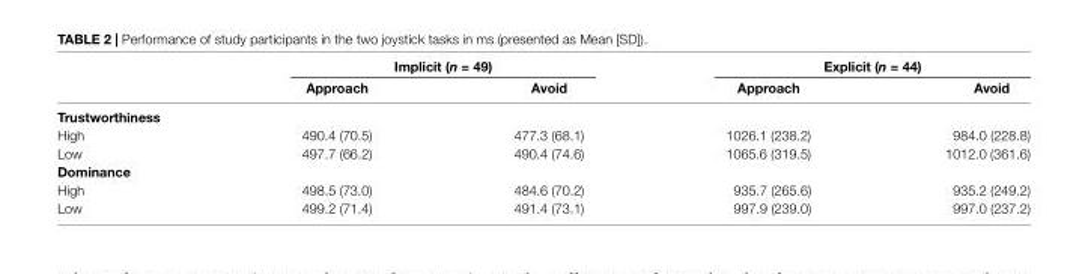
<table><thead><tr><td rowspan="2"></td><td colspan="2">Implicit (n = 49)</td><td colspan="2">Explicit (n = 44)</td></tr><tr><td>Approach</td><td>Avoid</td><td>Approach</td><td>Avoid</td></tr></thead><tbody><tr><td colspan="5">Trustworthiness</td></tr><tr><td>High</td><td>490.4 (70.5)</td><td>477.3 (68.1)</td><td>1026.1 (238.2)</td><td>984.0 (228.8)</td></tr><tr><td>Low</td><td>497.7 (66.2)</td><td>490.4 (74.6)</td><td>1065.6 (319.5)</td><td>1012.0 (361.6)</td></tr><tr><td colspan="5">Dominance</td></tr><tr><td>High</td><td>498.5 (73.0)</td><td>484.6 (70.2)</td><td>935.7 (265.6)</td><td>935.2 (249.2)</td></tr><tr><td>Low</td><td>499.2 (71.4)</td><td>491.4 (73.1)</td><td>997.9 (239.0)</td><td>997.0 (237.2)</td></tr></tbody></table>